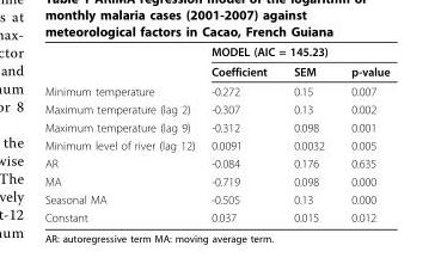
<table><thead><tr><td rowspan="2"></td><td colspan="2">MODEL (AIC = 145.23)</td><td rowspan="2">p-value</td></tr><tr><td>Coefficient</td><td>SEM</td></tr></thead><tbody><tr><td>Minimum temperature</td><td>-0.272</td><td>0.15</td><td>0.007</td></tr><tr><td>Maximum temperature (lag 2)</td><td>-0.307</td><td>0.13</td><td>0.002</td></tr><tr><td>Maximum temperature (lag 9)</td><td>-0.312</td><td>0.098</td><td>0.001</td></tr><tr><td>Minimum level of river (lag 12)</td><td>0.0091</td><td>0.0032</td><td>0.005</td></tr><tr><td>AR</td><td>-0.084</td><td>0.176</td><td>0.635</td></tr><tr><td>MA</td><td>-0.719</td><td>0.098</td><td>0.000</td></tr><tr><td>Seasonal MA</td><td>-0.505</td><td>0.13</td><td>0.000</td></tr><tr><td>Constant</td><td>0.037</td><td>0.015</td><td>0.012</td></tr></tbody></table>